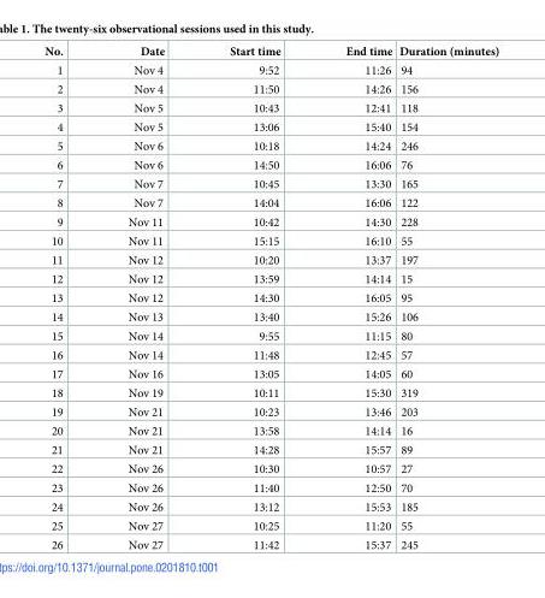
<table><thead><tr><td>No.</td><td>Date</td><td>Start time</td><td>End time</td><td>Duration (minutes)</td></tr></thead><tbody><tr><td>1</td><td>Nov 4</td><td>9:52</td><td>11:26</td><td>94</td></tr><tr><td>2</td><td>Nov 4</td><td>11:50</td><td>14:26</td><td>156</td></tr><tr><td>3</td><td>Nov 5</td><td>10:43</td><td>12:41</td><td>118</td></tr><tr><td>4</td><td>Nov 5</td><td>13:06</td><td>15:40</td><td>154</td></tr><tr><td>5</td><td>Nov 6</td><td>10:18</td><td>14:24</td><td>246</td></tr><tr><td>6</td><td>Nov 6</td><td>14:50</td><td>16:06</td><td>76</td></tr><tr><td>7</td><td>Nov 7</td><td>10:45</td><td>13:30</td><td>165</td></tr><tr><td>8</td><td>Nov 7</td><td>14:04</td><td>16:06</td><td>122</td></tr><tr><td>9</td><td>Nov 11</td><td>10:42</td><td>14:30</td><td>228</td></tr><tr><td>10</td><td>Nov 11</td><td>15:15</td><td>16:10</td><td>55</td></tr><tr><td>11</td><td>Nov 12</td><td>10:20</td><td>13:37</td><td>197</td></tr><tr><td>12</td><td>Nov 12</td><td>13:59</td><td>14:14</td><td>15</td></tr><tr><td>13</td><td>Nov 12</td><td>14:30</td><td>16:05</td><td>95</td></tr><tr><td>14</td><td>Nov 13</td><td>13:40</td><td>15:26</td><td>106</td></tr><tr><td>15</td><td>Nov 14</td><td>9:55</td><td>11:15</td><td>80</td></tr><tr><td>16</td><td>Nov 14</td><td>11:48</td><td>12:45</td><td>57</td></tr><tr><td>17</td><td>Nov 16</td><td>13:05</td><td>14:05</td><td>60</td></tr><tr><td>18</td><td>Nov 19</td><td>10:11</td><td>15:30</td><td>319</td></tr><tr><td>19</td><td>Nov 21</td><td>10:23</td><td>13:46</td><td>203</td></tr><tr><td>20</td><td>Nov 21</td><td>13:58</td><td>14:14</td><td>16</td></tr><tr><td>21</td><td>Nov 21</td><td>14:28</td><td>15:57</td><td>89</td></tr><tr><td>22</td><td>Nov 26</td><td>10:30</td><td>10:57</td><td>27</td></tr><tr><td>23</td><td>Nov 26</td><td>11:40</td><td>12:50</td><td>70</td></tr><tr><td>24</td><td>Nov 26</td><td>13:12</td><td>15:53</td><td>185</td></tr><tr><td>25</td><td>Nov 27</td><td>10:25</td><td>11:20</td><td>55</td></tr><tr><td>26</td><td>Nov 27</td><td>11:42</td><td>15:37</td><td>245</td></tr></tbody></table>